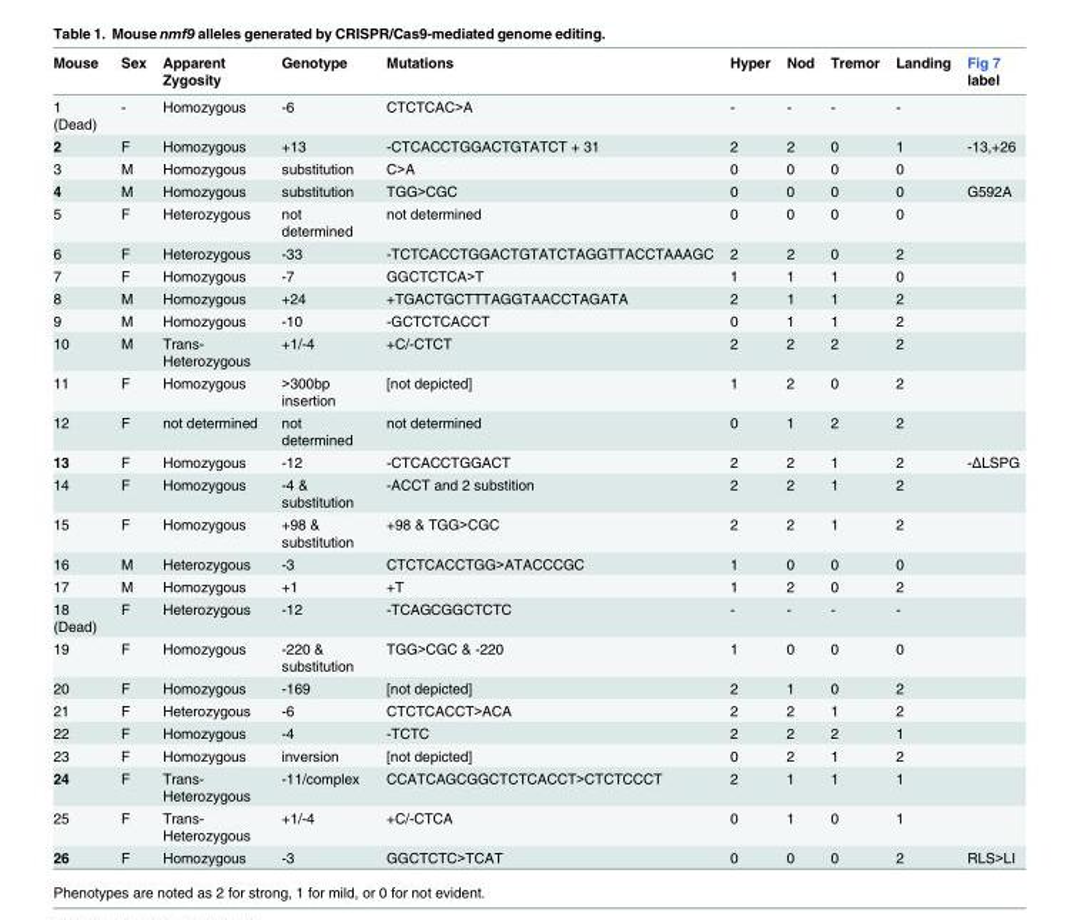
<table><thead><tr><td>Mouse</td><td>Sex</td><td>Apparent Zygosity</td><td>Genotype</td><td>Mutations</td><td>Hyper</td><td>Nod</td><td>Tremor</td><td>Landing</td><td>Fig 7 label</td></tr></thead><tbody><tr><td>1 (Dead)</td><td>-</td><td>Homozygous</td><td>-6</td><td>CTCTCAC&gt;A</td><td>-</td><td>-</td><td>-</td><td>-</td><td></td></tr><tr><td>2</td><td>F</td><td>Homozygous</td><td>+13</td><td>-CTCACCTGGACTGTATCT + 31</td><td>2</td><td>2</td><td>0</td><td>1</td><td>-13,+26</td></tr><tr><td>3</td><td>M</td><td>Homozygous</td><td>substitution</td><td>C&gt;A</td><td>0</td><td>0</td><td>0</td><td>0</td><td></td></tr><tr><td>4</td><td>M</td><td>Homozygous</td><td>substitution</td><td>TGG&gt;CGC</td><td>0</td><td>0</td><td>0</td><td>0</td><td>G592A</td></tr><tr><td>5</td><td>F</td><td>Heterozygous</td><td>not determined</td><td>not determined</td><td>0</td><td>0</td><td>0</td><td>0</td><td></td></tr><tr><td>6</td><td>F</td><td>Heterozygous</td><td>-33</td><td>-TCTCACCTGGACTGTATCTAGGTTACCTAAAGC</td><td>2</td><td>2</td><td>0</td><td>2</td><td></td></tr><tr><td>7</td><td>F</td><td>Homozygous</td><td>-7</td><td>GGCTCTCA&gt;T</td><td>1</td><td>1</td><td>1</td><td>0</td><td></td></tr><tr><td>8</td><td>M</td><td>Homozygous</td><td>+24</td><td>+TGACTGCTTTAGGTAACCTAGATA</td><td>2</td><td>1</td><td>1</td><td>2</td><td></td></tr><tr><td>9</td><td>M</td><td>Homozygous</td><td>-10</td><td>-GCTCTCACCT</td><td>0</td><td>1</td><td>1</td><td>2</td><td></td></tr><tr><td>10</td><td>M</td><td>Trans- Heterozygous</td><td>+1/-4</td><td>+C/-CTCT</td><td>2</td><td>2</td><td>2</td><td>2</td><td></td></tr><tr><td>11</td><td>F</td><td>Homozygous</td><td>&gt;300bp insertion</td><td>[not depicted]</td><td>1</td><td>2</td><td>0</td><td>2</td><td></td></tr><tr><td>12</td><td>F</td><td>not determined</td><td>not determined</td><td>not determined</td><td>0</td><td>1</td><td>2</td><td>2</td><td></td></tr><tr><td>13</td><td>F</td><td>Homozygous</td><td>-12</td><td>-CTCACCTGGACT</td><td>2</td><td>2</td><td>1</td><td>2</td><td>-ΔLSPG</td></tr><tr><td>14</td><td>F</td><td>Homozygous</td><td>-4 &amp; substitution</td><td>-ACCT and 2 substition</td><td>2</td><td>2</td><td>1</td><td>2</td><td></td></tr><tr><td>15</td><td>F</td><td>Homozygous</td><td>+98 &amp; substitution</td><td>+98 &amp; TGG&gt;CGC</td><td>2</td><td>2</td><td>1</td><td>2</td><td></td></tr><tr><td>16</td><td>M</td><td>Heterozygous</td><td>-3</td><td>CTCTCACCTGG&gt;ATACCCGC</td><td>1</td><td>0</td><td>0</td><td>0</td><td></td></tr><tr><td>17</td><td>M</td><td>Homozygous</td><td>+1</td><td>+T</td><td>1</td><td>2</td><td>0</td><td>2</td><td></td></tr><tr><td>18 (Dead)</td><td>F</td><td>Heterozygous</td><td>-12</td><td>-TCAGCGGCTCTC</td><td>-</td><td>-</td><td>-</td><td>-</td><td></td></tr><tr><td>19</td><td>F</td><td>Homozygous</td><td>-220 &amp; substitution</td><td>TGG&gt;CGC &amp; -220</td><td>1</td><td>0</td><td>0</td><td>0</td><td></td></tr><tr><td>20</td><td>F</td><td>Homozygous</td><td>-169</td><td>[not depicted]</td><td>2</td><td>1</td><td>0</td><td>2</td><td></td></tr><tr><td>21</td><td>F</td><td>Heterozygous</td><td>-6</td><td>CTCTCACCT&gt;ACA</td><td>2</td><td>2</td><td>1</td><td>2</td><td></td></tr><tr><td>22</td><td>F</td><td>Homozygous</td><td>-4</td><td>-TCTC</td><td>2</td><td>2</td><td>2</td><td>1</td><td></td></tr><tr><td>23</td><td>F</td><td>Homozygous</td><td>inversion</td><td>[not depicted]</td><td>0</td><td>2</td><td>1</td><td>2</td><td></td></tr><tr><td>24</td><td>F</td><td>Trans- Heterozygous</td><td>-11/complex</td><td>CCATCAGCGGCTCTCACCT&gt;CTCTCCCT</td><td>2</td><td>1</td><td>1</td><td>1</td><td></td></tr><tr><td>25</td><td>F</td><td>Trans- Heterozygous</td><td>+1/-4</td><td>+C/-CTCA</td><td>0</td><td>1</td><td>0</td><td>1</td><td></td></tr><tr><td>26</td><td>F</td><td>Homozygous</td><td>-3</td><td>GGCTCTC&gt;TCAT</td><td>0</td><td>0</td><td>0</td><td>2</td><td>RLS&gt;LI</td></tr></tbody></table>